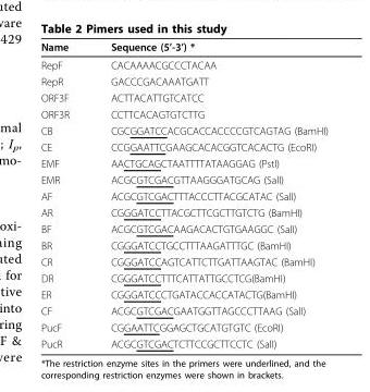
<table><thead><tr><td>Name</td><td>Sequence (5’-3’) *</td></tr></thead><tbody><tr><td>RepF</td><td>CACAAAACGCCCTACAA</td></tr><tr><td>RepR</td><td>GACCCGACAAATGATT</td></tr><tr><td>ORF3F</td><td>ACTTACATTGTCATCC</td></tr><tr><td>ORF3R</td><td>CCTTCACAGTGTCTTG</td></tr><tr><td>CB</td><td>CGCGGATCCACGCACCACCCCGTCAGTAG (BamHI)</td></tr><tr><td>CE</td><td>CCGGAATTCGAAGCACACGGTCACACTG (EcoRI)</td></tr><tr><td>EMF</td><td>AACTGCAGCTAATTTTATAAGGAG (PstI)</td></tr><tr><td>EMR</td><td>ACGCGTCGACGTTAAGGGATGCAG (SalI)</td></tr><tr><td>AF</td><td>ACGCGTCGACTTTACCCTTACGCATAC (SalI)</td></tr><tr><td>AR</td><td>CGGGATCCTTACGCTTCGCTTGTCTG (BamHI)</td></tr><tr><td>BF</td><td>ACGCGTCGACAAGACACTGTGAAGGC (SalI)</td></tr><tr><td>BR</td><td>CGGGATCCTGCCTTTAAGATTTGC (BamHI)</td></tr><tr><td>CR</td><td>CGGGATCCAGTCATTCTTGATTAAGTAC (BamHI)</td></tr><tr><td>DR</td><td>CGGGATCCTTTCATTATTGCCTCG(BamHI)</td></tr><tr><td>ER</td><td>CGGGATCCCTGATACCACCATACTG(BamHI)</td></tr><tr><td>CF</td><td>ACGCGTCGACGAATGGTTAGCCCTTAAG (SalI)</td></tr><tr><td>PucF</td><td>CGGAATTCGGAGCTGCATGTGTC (EcoRI)</td></tr><tr><td>PucR</td><td>ACGCGTCGACTCTTCCGCTTCCTC (SalI)</td></tr></tbody></table>